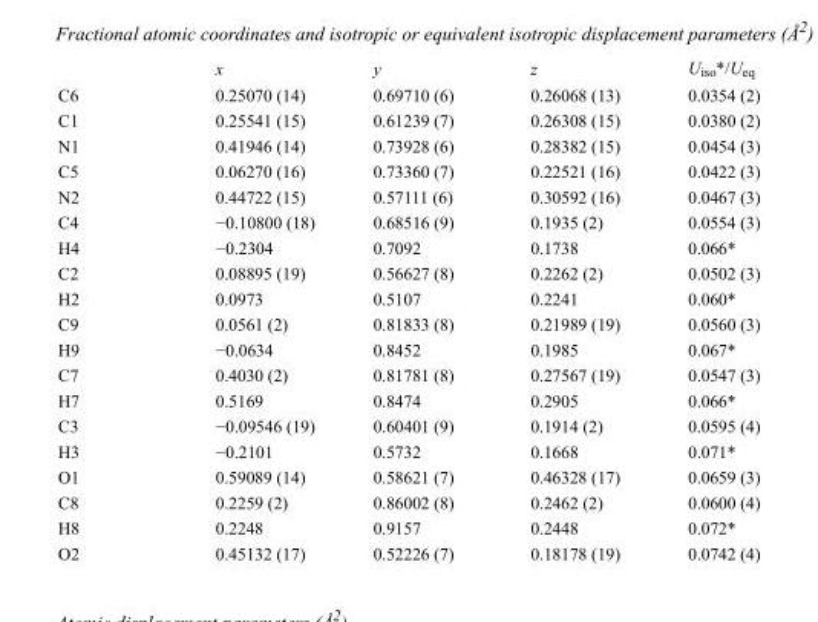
<table><thead><tr><td></td><td>x</td><td>y</td><td>z</td><td>U<sub>iso</sub>*/U<sub>eq</sub></td></tr></thead><tbody><tr><td>C6</td><td>0.25070 (14)</td><td>0.69710 (6)</td><td>0.26068 (13)</td><td>0.0354 (2)</td></tr><tr><td>C1</td><td>0.25541 (15)</td><td>0.61239 (7)</td><td>0.26308 (15)</td><td>0.0380 (2)</td></tr><tr><td>N1</td><td>0.41946 (14)</td><td>0.73928 (6)</td><td>0.28382 (15)</td><td>0.0454 (3)</td></tr><tr><td>C5</td><td>0.06270 (16)</td><td>0.73360 (7)</td><td>0.22521 (16)</td><td>0.0422 (3)</td></tr><tr><td>N2</td><td>0.44722 (15)</td><td>0.57111 (6)</td><td>0.30592 (16)</td><td>0.0467 (3)</td></tr><tr><td>C4</td><td>−0.10800 (18)</td><td>0.68516 (9)</td><td>0.1935 (2)</td><td>0.0554 (3)</td></tr><tr><td>H4</td><td>−0.2304</td><td>0.7092</td><td>0.1738</td><td>0.066*</td></tr><tr><td>C2</td><td>0.08895 (19)</td><td>0.56627 (8)</td><td>0.2262 (2)</td><td>0.0502 (3)</td></tr><tr><td>H2</td><td>0.0973</td><td>0.5107</td><td>0.2241</td><td>0.060*</td></tr><tr><td>C9</td><td>0.0561 (2)</td><td>0.81833 (8)</td><td>0.21989 (19)</td><td>0.0560 (3)</td></tr><tr><td>H9</td><td>−0.0634</td><td>0.8452</td><td>0.1985</td><td>0.067*</td></tr><tr><td>C7</td><td>0.4030 (2)</td><td>0.81781 (8)</td><td>0.27567 (19)</td><td>0.0547 (3)</td></tr><tr><td>H7</td><td>0.5169</td><td>0.8474</td><td>0.2905</td><td>0.066*</td></tr><tr><td>C3</td><td>−0.09546 (19)</td><td>0.60401 (9)</td><td>0.1914 (2)</td><td>0.0595 (4)</td></tr><tr><td>H3</td><td>−0.2101</td><td>0.5732</td><td>0.1668</td><td>0.071*</td></tr><tr><td>O1</td><td>0.59089 (14)</td><td>0.58621 (7)</td><td>0.46328 (17)</td><td>0.0659 (3)</td></tr><tr><td>C8</td><td>0.2259 (2)</td><td>0.86002 (8)</td><td>0.2462 (2)</td><td>0.0600 (4)</td></tr><tr><td>H8</td><td>0.2248</td><td>0.9157</td><td>0.2448</td><td>0.072*</td></tr><tr><td>O2</td><td>0.45132 (17)</td><td>0.52226 (7)</td><td>0.18178 (19)</td><td>0.0742 (4)</td></tr></tbody></table>